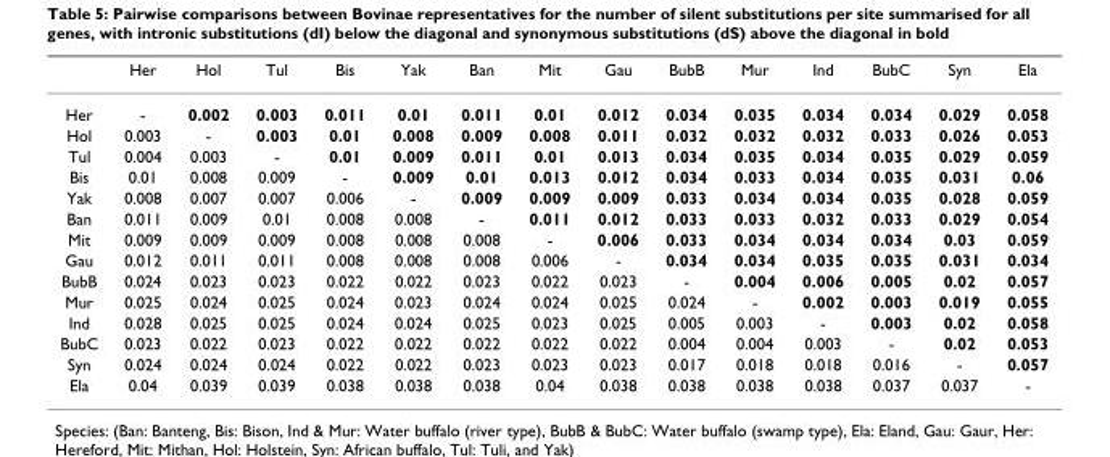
<table><thead><tr><td></td><td>Her</td><td>Hol</td><td>Tul</td><td>Bis</td><td>Yak</td><td>Ban</td><td>Mit</td><td>Gau</td><td>BubB</td><td>Mur</td><td>Ind</td><td>BubC</td><td>Syn</td><td>Ela</td></tr></thead><tbody><tr><td>Her</td><td>-</td><td>0.002</td><td>0.003</td><td>0.011</td><td>0.01</td><td>0.011</td><td>0.01</td><td>0.012</td><td>0.034</td><td>0.035</td><td>0.034</td><td>0.034</td><td>0.029</td><td>0.058</td></tr><tr><td>Hol</td><td>0.003</td><td>-</td><td>0.003</td><td>0.01</td><td>0.008</td><td>0.009</td><td>0.008</td><td>0.011</td><td>0.032</td><td>0.032</td><td>0.032</td><td>0.033</td><td>0.026</td><td>0.053</td></tr><tr><td>Tul</td><td>0.004</td><td>0.003</td><td>-</td><td>0.01</td><td>0.009</td><td>0.011</td><td>0.01</td><td>0.013</td><td>0.034</td><td>0.035</td><td>0.034</td><td>0.035</td><td>0.029</td><td>0.059</td></tr><tr><td>Bis</td><td>0.01</td><td>0.008</td><td>0.009</td><td>-</td><td>0.009</td><td>0.01</td><td>0.013</td><td>0.012</td><td>0.034</td><td>0.033</td><td>0.034</td><td>0.035</td><td>0.031</td><td>0.06</td></tr><tr><td>Yak</td><td>0.008</td><td>0.007</td><td>0.007</td><td>0.006</td><td>-</td><td>0.009</td><td>0.009</td><td>0.009</td><td>0.033</td><td>0.034</td><td>0.034</td><td>0.035</td><td>0.028</td><td>0.059</td></tr><tr><td>Ban</td><td>0.011</td><td>0.009</td><td>0.01</td><td>0.008</td><td>0.008</td><td>-</td><td>0.011</td><td>0.012</td><td>0.033</td><td>0.033</td><td>0.032</td><td>0.033</td><td>0.029</td><td>0.054</td></tr><tr><td>Mit</td><td>0.009</td><td>0.009</td><td>0.009</td><td>0.008</td><td>0.008</td><td>0.008</td><td>-</td><td>0.006</td><td>0.033</td><td>0.034</td><td>0.034</td><td>0.034</td><td>0.03</td><td>0.059</td></tr><tr><td>Gau</td><td>0.012</td><td>0.011</td><td>0.011</td><td>0.008</td><td>0.008</td><td>0.008</td><td>0.006</td><td>-</td><td>0.034</td><td>0.034</td><td>0.035</td><td>0.035</td><td>0.031</td><td>0.034</td></tr><tr><td>BubB</td><td>0.024</td><td>0.023</td><td>0.023</td><td>0.022</td><td>0.022</td><td>0.023</td><td>0.022</td><td>0.023</td><td>-</td><td>0.004</td><td>0.006</td><td>0.005</td><td>0.02</td><td>0.057</td></tr><tr><td>Mur</td><td>0.025</td><td>0.024</td><td>0.025</td><td>0.024</td><td>0.023</td><td>0.024</td><td>0.024</td><td>0.025</td><td>0.024</td><td>-</td><td>0.002</td><td>0.003</td><td>0.019</td><td>0.055</td></tr><tr><td>Ind</td><td>0.028</td><td>0.025</td><td>0.025</td><td>0.024</td><td>0.024</td><td>0.025</td><td>0.023</td><td>0.025</td><td>0.005</td><td>0.003</td><td>-</td><td>0.003</td><td>0.02</td><td>0.058</td></tr><tr><td>BubC</td><td>0.023</td><td>0.022</td><td>0.023</td><td>0.022</td><td>0.022</td><td>0.022</td><td>0.022</td><td>0.022</td><td>0.004</td><td>0.004</td><td>0.003</td><td>-</td><td>0.02</td><td>0.053</td></tr><tr><td>Syn</td><td>0.024</td><td>0.024</td><td>0.024</td><td>0.022</td><td>0.022</td><td>0.023</td><td>0.023</td><td>0.023</td><td>0.017</td><td>0.018</td><td>0.018</td><td>0.016</td><td>-</td><td>0.057</td></tr><tr><td>Ela</td><td>0.04</td><td>0.039</td><td>0.039</td><td>0.038</td><td>0.038</td><td>0.038</td><td>0.04</td><td>0.038</td><td>0.038</td><td>0.038</td><td>0.038</td><td>0.037</td><td>0.037</td><td>-</td></tr></tbody></table>